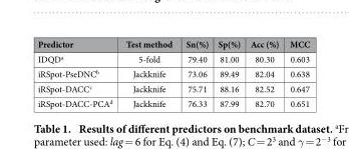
<table><thead><tr><td>Predictor</td><td>Test method</td><td>Sn(%)</td><td>Sp(%)</td><td>Acc (%)</td><td>MCC</td></tr></thead><tbody><tr><td>IDQD<sup>a</sup></td><td>5-fold</td><td>79.40</td><td>81.00</td><td>80.30</td><td>0.603</td></tr><tr><td>iRSpot-PseDNC<sup>b</sup></td><td>Jackknife</td><td>73.06</td><td>89.49</td><td>82.04</td><td>0.638</td></tr><tr><td>iRSpot-DACC<sup>c</sup></td><td>Jackknife</td><td>75.71</td><td>88.16</td><td>82.52</td><td>0.647</td></tr><tr><td>iRSpot-DACC-PCA<sup>d</sup></td><td>Jackknife</td><td>76.33</td><td>87.99</td><td>82.70</td><td>0.651</td></tr></tbody></table>